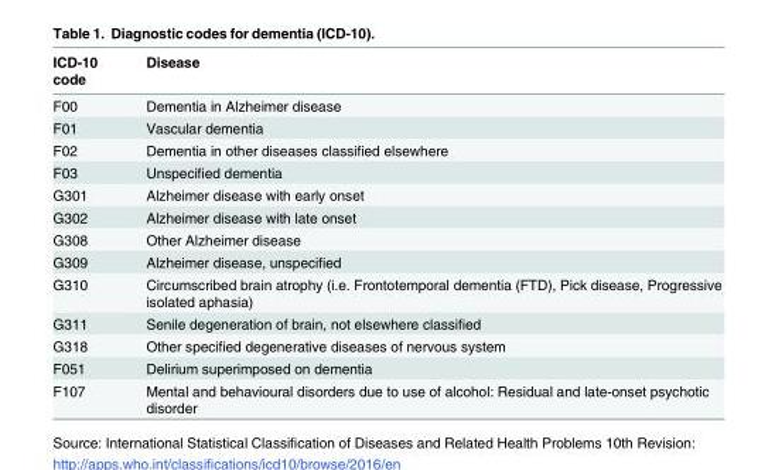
<table><thead><tr><td>ICD-10 code</td><td>Disease</td></tr></thead><tbody><tr><td>F00</td><td>Dementia in Alzheimer disease</td></tr><tr><td>F01</td><td>Vascular dementia</td></tr><tr><td>F02</td><td>Dementia in other diseases classified elsewhere</td></tr><tr><td>F03</td><td>Unspecified dementia</td></tr><tr><td>G301</td><td>Alzheimer disease with early onset</td></tr><tr><td>G302</td><td>Alzheimer disease with late onset</td></tr><tr><td>G308</td><td>Other Alzheimer disease</td></tr><tr><td>G309</td><td>Alzheimer disease, unspecified</td></tr><tr><td>G310</td><td>Circumscribed brain atrophy (i.e. Frontotemporal dementia (FTD), Pick disease, Progressive isolated aphasia)</td></tr><tr><td>G311</td><td>Senile degeneration of brain, not elsewhere classified</td></tr><tr><td>G318</td><td>Other specified degenerative diseases of nervous system</td></tr><tr><td>F051</td><td>Delirium superimposed on dementia</td></tr><tr><td>F107</td><td>Mental and behavioural disorders due to use of alcohol: Residual and late-onset psychotic disorder</td></tr></tbody></table>